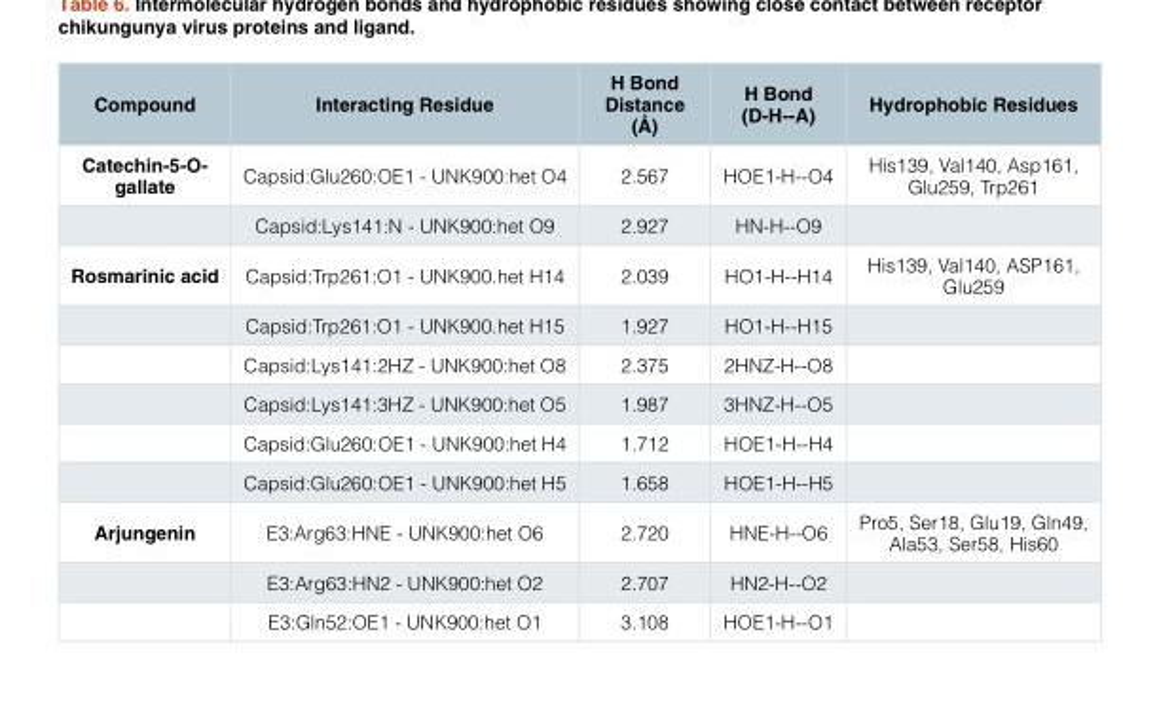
<table><thead><tr><td>Compound</td><td>Interacting Residue</td><td>H Bond Distance (Å)</td><td>H Bond (D-H--A)</td><td>Hydrophobic Residues</td></tr></thead><tbody><tr><td rowspan="2">Catechin-5-O- gallate</td><td>Capsid:Glu260:OE1 - UNK900:het O4</td><td>2.567</td><td>HOE1-H--O4</td><td>His139, Val140, Asp161, Glu259, Trp261</td></tr><tr><td>Capsid:Lys141:N - UNK900:het O9</td><td>2.927</td><td>HN-H--O9</td><td></td></tr><tr><td rowspan="6">Rosmarinic acid</td><td>Capsid:Trp261:O1 - UNK900.het H14</td><td>2.039</td><td>HO1-H--H14</td><td>His139, Val140, ASP161, Glu259</td></tr><tr><td>Capsid:Trp261:O1 - UNK900.het H15</td><td>1.927</td><td>HO1-H--H15</td><td></td></tr><tr><td>Capsid:Lys141:2HZ - UNK900:het O8</td><td>2.375</td><td>2HNZ-H--O8</td><td></td></tr><tr><td>Capsid:Lys141:3HZ - UNK900:het O5</td><td>1.987</td><td>3HNZ-H--O5</td><td></td></tr><tr><td>Capsid:Glu260:OE1 - UNK900:het H4</td><td>1.712</td><td>HOE1-H--H4</td><td></td></tr><tr><td>Capsid:Glu260:OE1 - UNK900:het H5</td><td>1.658</td><td>HOE1-H--H5</td><td></td></tr><tr><td rowspan="3">Arjungenin</td><td>E3:Arg63:HNE - UNK900:het O6</td><td>2.720</td><td>HNE-H--O6</td><td>Pro5, Ser18, Glu19, Gln49, Ala53, Ser58, His60</td></tr><tr><td>E3:Arg63:HN2 - UNK900:het O2</td><td>2.707</td><td>HN2-H--O2</td><td></td></tr><tr><td>E3:Gln52:OE1 - UNK900:het O1</td><td>3.108</td><td>HOE1-H--O1</td><td></td></tr></tbody></table>